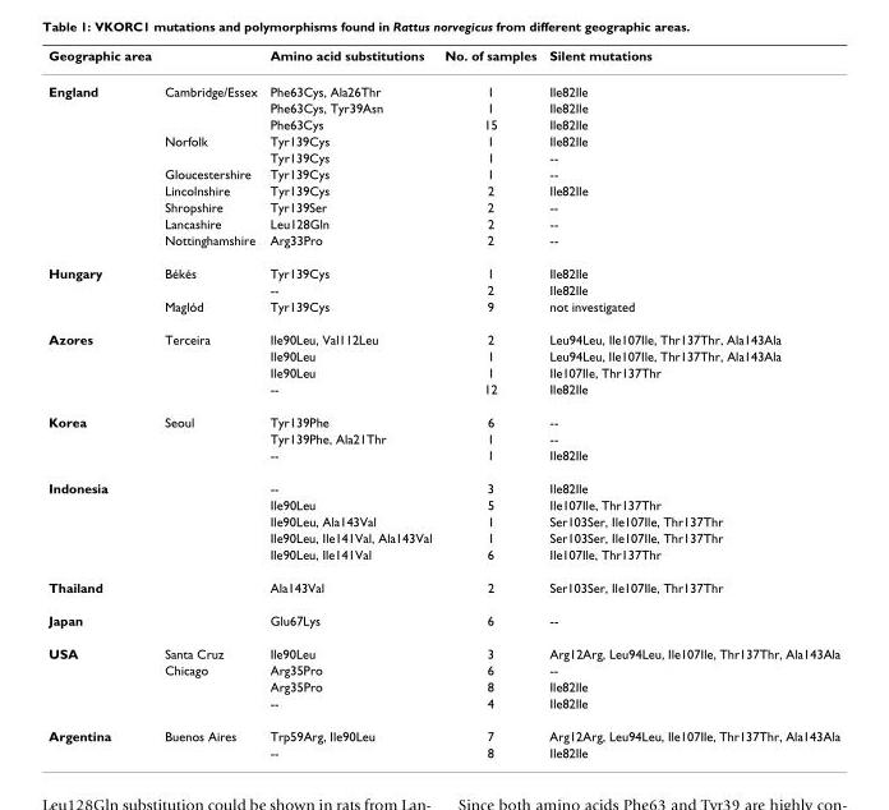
<table><thead><tr><td>Geographic area</td><td></td><td>Amino acid substitutions</td><td>No. of samples</td><td>Silent mutations</td></tr></thead><tbody><tr><td rowspan="10">England</td><td>Cambridge/Essex</td><td>Phe63Cys, Ala26Thr</td><td>1</td><td>Ile82Ile</td></tr><tr><td></td><td>Phe63Cys, Tyr39Asn</td><td>1</td><td>Ile82Ile</td></tr><tr><td></td><td>Phe63Cys</td><td>15</td><td>Ile82Ile</td></tr><tr><td>Norfolk</td><td>Tyr139Cys</td><td>1</td><td>Ile82Ile</td></tr><tr><td></td><td>Tyr139Cys</td><td>1</td><td>--</td></tr><tr><td>Gloucestershire</td><td>Tyr139Cys</td><td>1</td><td>--</td></tr><tr><td>Lincolnshire</td><td>Tyr139Cys</td><td>2</td><td>Ile82Ile</td></tr><tr><td>Shropshire</td><td>Tyr139Ser</td><td>2</td><td>--</td></tr><tr><td>Lancashire</td><td>Leu128Gln</td><td>2</td><td>--</td></tr><tr><td>Nottinghamshire</td><td>Arg33Pro</td><td>2</td><td>--</td></tr><tr><td rowspan="3">Hungary</td><td>Békés</td><td>Tyr139Cys</td><td>1</td><td>Ile82Ile</td></tr><tr><td></td><td>--</td><td>2</td><td>Ile82Ile</td></tr><tr><td>Maglód</td><td>Tyr139Cys</td><td>9</td><td>not investigated</td></tr><tr><td rowspan="4">Azores</td><td>Terceira</td><td>Ile90Leu, Val112Leu</td><td>2</td><td>Leu94Leu, Ile107Ile, Thr137Thr, Ala143Ala</td></tr><tr><td></td><td>Ile90Leu</td><td>1</td><td>Leu94Leu, Ile107Ile, Thr137Thr, Ala143Ala</td></tr><tr><td></td><td>Ile90Leu</td><td>1</td><td>Ile107Ile, Thr137Thr</td></tr><tr><td></td><td>--</td><td>12</td><td>Ile82Ile</td></tr><tr><td rowspan="3">Korea</td><td>Seoul</td><td>Tyr139Phe</td><td>6</td><td>--</td></tr><tr><td></td><td>Tyr139Phe, Ala21Thr</td><td>1</td><td>--</td></tr><tr><td></td><td>--</td><td>1</td><td>Ile82Ile</td></tr><tr><td rowspan="5">Indonesia</td><td></td><td>--</td><td>3</td><td>Ile82Ile</td></tr><tr><td></td><td>Ile90Leu</td><td>5</td><td>Ile107Ile, Thr137Thr</td></tr><tr><td></td><td>Ile90Leu, Ala143Val</td><td>1</td><td>Ser103Ser, Ile107Ile, Thr137Thr</td></tr><tr><td></td><td>Ile90Leu, Ile141Val, Ala143Val</td><td>1</td><td>Ser103Ser, Ile107Ile, Thr137Thr</td></tr><tr><td></td><td>Ile90Leu, Ile141Val</td><td>6</td><td>Ile107Ile, Thr137Thr</td></tr><tr><td>Thailand</td><td></td><td>Ala143Val</td><td>2</td><td>Ser103Ser, Ile107Ile, Thr137Thr</td></tr><tr><td>Japan</td><td></td><td>Glu67Lys</td><td>6</td><td>--</td></tr><tr><td rowspan="4">USA</td><td>Santa Cruz</td><td>Ile90Leu</td><td>3</td><td>Arg12Arg, Leu94Leu, Ile107Ile, Thr137Thr, Ala143Ala</td></tr><tr><td>Chicago</td><td>Arg35Pro</td><td>6</td><td>--</td></tr><tr><td></td><td>Arg35Pro</td><td>8</td><td>Ile82Ile</td></tr><tr><td></td><td>--</td><td>4</td><td>Ile82Ile</td></tr><tr><td rowspan="2">Argentina</td><td>Buenos Aires</td><td>Trp59Arg, Ile90Leu</td><td>7</td><td>Arg12Arg, Leu94Leu, Ile107Ile, Thr137Thr, Ala143Ala</td></tr><tr><td></td><td>--</td><td>8</td><td>Ile82Ile</td></tr></tbody></table>